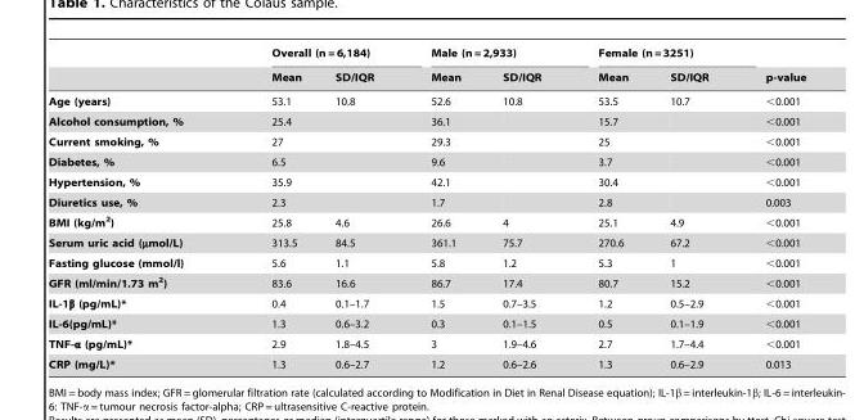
<table><thead><tr><td rowspan="2"></td><td colspan="2">Overall (n = 6,184)</td><td colspan="2">Male (n = 2,933)</td><td colspan="2">Female (n = 3251)</td><td rowspan="2">p-value</td></tr><tr><td>Mean</td><td>SD/IQR</td><td>Mean</td><td>SD/IQR</td><td>Mean</td><td>SD/IQR</td></tr></thead><tbody><tr><td>Age (years)</td><td>53.1</td><td>10.8</td><td>52.6</td><td>10.8</td><td>53.5</td><td>10.7</td><td>&lt;0.001</td></tr><tr><td>Alcohol consumption, %</td><td>25.4</td><td></td><td>36.1</td><td></td><td>15.7</td><td></td><td>&lt;0.001</td></tr><tr><td>Current smoking, %</td><td>27</td><td></td><td>29.3</td><td></td><td>25</td><td></td><td>&lt;0.001</td></tr><tr><td>Diabetes, %</td><td>6.5</td><td></td><td>9.6</td><td></td><td>3.7</td><td></td><td>&lt;0.001</td></tr><tr><td>Hypertension, %</td><td>35.9</td><td></td><td>42.1</td><td></td><td>30.4</td><td></td><td>&lt;0.001</td></tr><tr><td>Diuretics use, %</td><td>2.3</td><td></td><td>1.7</td><td></td><td>2.8</td><td></td><td>0.003</td></tr><tr><td>BMI (kg/m<sup>2</sup>)</td><td>25.8</td><td>4.6</td><td>26.6</td><td>4</td><td>25.1</td><td>4.9</td><td>&lt;0.001</td></tr><tr><td>Serum uric acid (µmol/L)</td><td>313.5</td><td>84.5</td><td>361.1</td><td>75.7</td><td>270.6</td><td>67.2</td><td>&lt;0.001</td></tr><tr><td>Fasting glucose (mmol/l)</td><td>5.6</td><td>1.1</td><td>5.8</td><td>1.2</td><td>5.3</td><td>1</td><td>&lt;0.001</td></tr><tr><td>GFR (ml/min/1.73 m<sup>2</sup>)</td><td>83.6</td><td>16.6</td><td>86.7</td><td>17.4</td><td>80.7</td><td>15.2</td><td>&lt;0.001</td></tr><tr><td>IL-1β (pg/mL)*</td><td>0.4</td><td>0.1–1.7</td><td>1.5</td><td>0.7–3.5</td><td>1.2</td><td>0.5–2.9</td><td>&lt;0.001</td></tr><tr><td>IL-6(pg/mL)*</td><td>1.3</td><td>0.6–3.2</td><td>0.3</td><td>0.1–1.5</td><td>0.5</td><td>0.1–1.9</td><td>&lt;0.001</td></tr><tr><td>TNF-α (pg/mL)*</td><td>2.9</td><td>1.8–4.5</td><td>3</td><td>1.9–4.6</td><td>2.7</td><td>1.7–4.4</td><td>&lt;0.001</td></tr><tr><td>CRP (mg/L)*</td><td>1.3</td><td>0.6–2.7</td><td>1.2</td><td>0.6–2.6</td><td>1.3</td><td>0.6–2.9</td><td>0.013</td></tr></tbody></table>